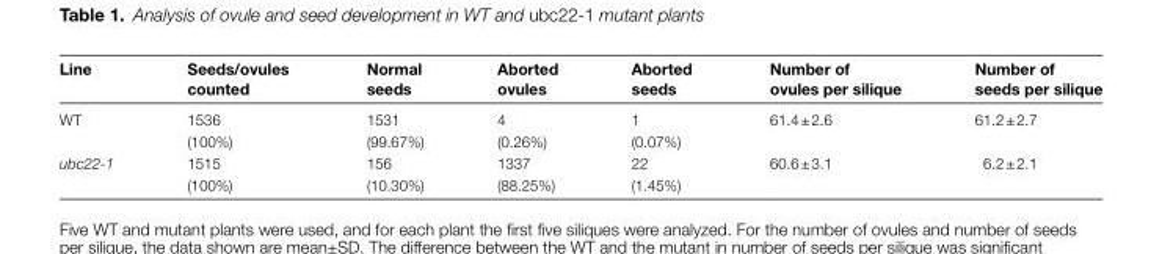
<table><thead><tr><td>Line</td><td>Seeds/ovules counted</td><td>Normal seeds</td><td>Aborted ovules</td><td>Aborted seeds</td><td>Number of ovules per silique</td><td>Number of seeds per silique</td></tr></thead><tbody><tr><td>WT</td><td>1536 (100%)</td><td>1531 (99.67%)</td><td>4 (0.26%)</td><td>1 (0.07%)</td><td>61.4 ± 2.6</td><td>61.2 ± 2.7</td></tr><tr><td>ubc22-1</td><td>1515 (100%)</td><td>156 (10.30%)</td><td>1337 (88.25%)</td><td>22 (1.45%)</td><td>60.6 ± 3.1</td><td>6.2 ± 2.1</td></tr></tbody></table>